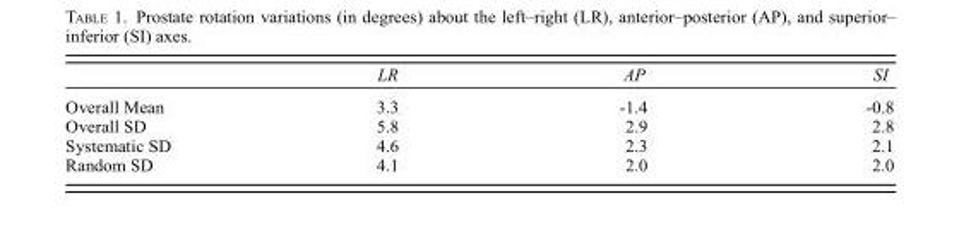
<table><thead><tr><td></td><td>LR</td><td>AP</td><td>SI</td></tr></thead><tbody><tr><td>Overall Mean</td><td>3.3</td><td>-1.4</td><td>-0.8</td></tr><tr><td>Overall SD</td><td>5.8</td><td>2.9</td><td>2.8</td></tr><tr><td>Systematic SD</td><td>4.6</td><td>2.3</td><td>2.1</td></tr><tr><td>Random SD</td><td>4.1</td><td>2.0</td><td>2.0</td></tr></tbody></table>